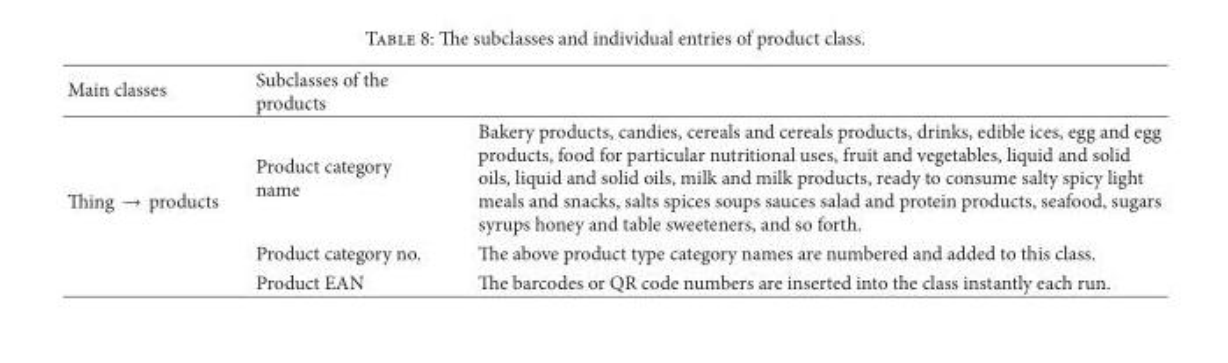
<table><thead><tr><td>Main classes</td><td>Subclasses of the products</td><td></td></tr></thead><tbody><tr><td rowspan="3">Thing → products</td><td>Product category name</td><td>Bakery products, candies, cereals and cereals products, drinks, edible ices, egg and egg products, food for particular nutritional uses, fruit and vegetables, liquid and solid oils, liquid and solid oils, milk and milk products, ready to consume salty spicy light meals and snacks, salts spices soups sauces salad and protein products, seafood, sugars syrups honey and table sweeteners, and so forth.</td></tr><tr><td>Product category no.</td><td>The above product type category names are numbered and added to this class.</td></tr><tr><td>Product EAN</td><td>The barcodes or QR code numbers are inserted into the class instantly each run.</td></tr></tbody></table>